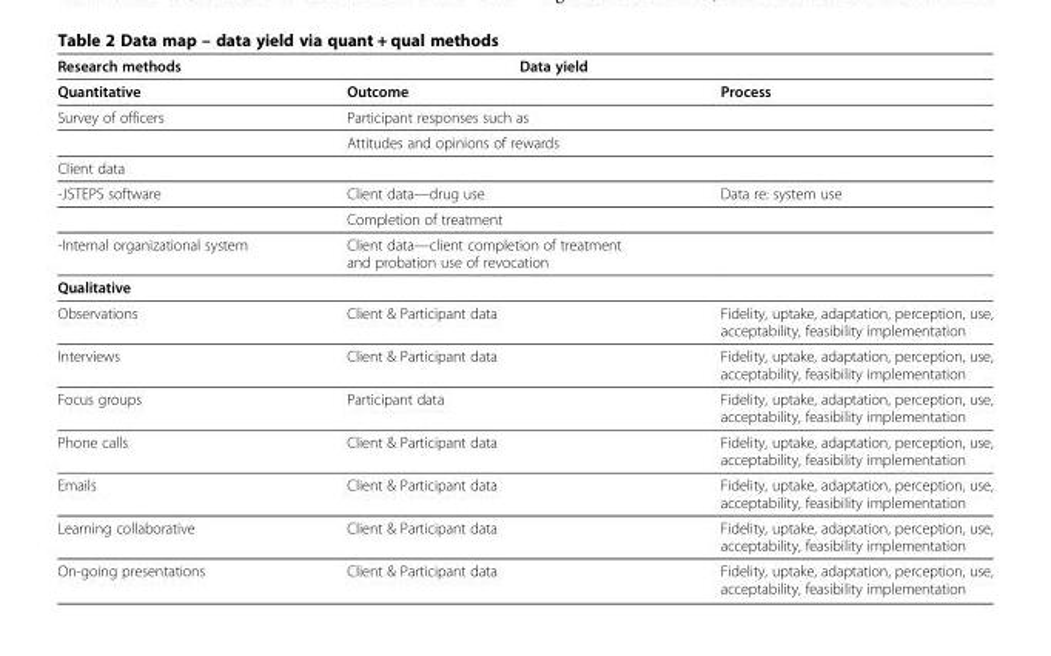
<table><thead><tr><td rowspan="2">Research methods Quantitative</td><td colspan="2">Data yield</td></tr><tr><td>Outcome</td><td>Process</td></tr></thead><tbody><tr><td rowspan="2">Survey of officers</td><td>Participant responses such as</td><td></td></tr><tr><td>Attitudes and opinions of rewards</td><td></td></tr><tr><td colspan="3">Client data</td></tr><tr><td rowspan="2">-JSTEPS software</td><td>Client data—drug use</td><td>Data re: system use</td></tr><tr><td>Completion of treatment</td><td></td></tr><tr><td>-Internal organizational system</td><td>Client data—client completion of treatment and probation use of revocation</td><td></td></tr><tr><td colspan="3">Qualitative</td></tr><tr><td>Observations</td><td>Client &amp; Participant data</td><td>Fidelity, uptake, adaptation, perception, use, acceptability, feasibility implementation</td></tr><tr><td>Interviews</td><td>Client &amp; Participant data</td><td>Fidelity, uptake, adaptation, perception, use, acceptability, feasibility implementation</td></tr><tr><td>Focus groups</td><td>Participant data</td><td>Fidelity, uptake, adaptation, perception, use, acceptability, feasibility implementation</td></tr><tr><td>Phone calls</td><td>Client &amp; Participant data</td><td>Fidelity, uptake, adaptation, perception, use, acceptability, feasibility implementation</td></tr><tr><td>Emails</td><td>Client &amp; Participant data</td><td>Fidelity, uptake, adaptation, perception, use, acceptability, feasibility implementation</td></tr><tr><td>Learning collaborative</td><td>Client &amp; Participant data</td><td>Fidelity, uptake, adaptation, perception, use, acceptability, feasibility implementation</td></tr><tr><td>On-going presentations</td><td>Client &amp; Participant data</td><td>Fidelity, uptake, adaptation, perception, use, acceptability, feasibility implementation</td></tr></tbody></table>